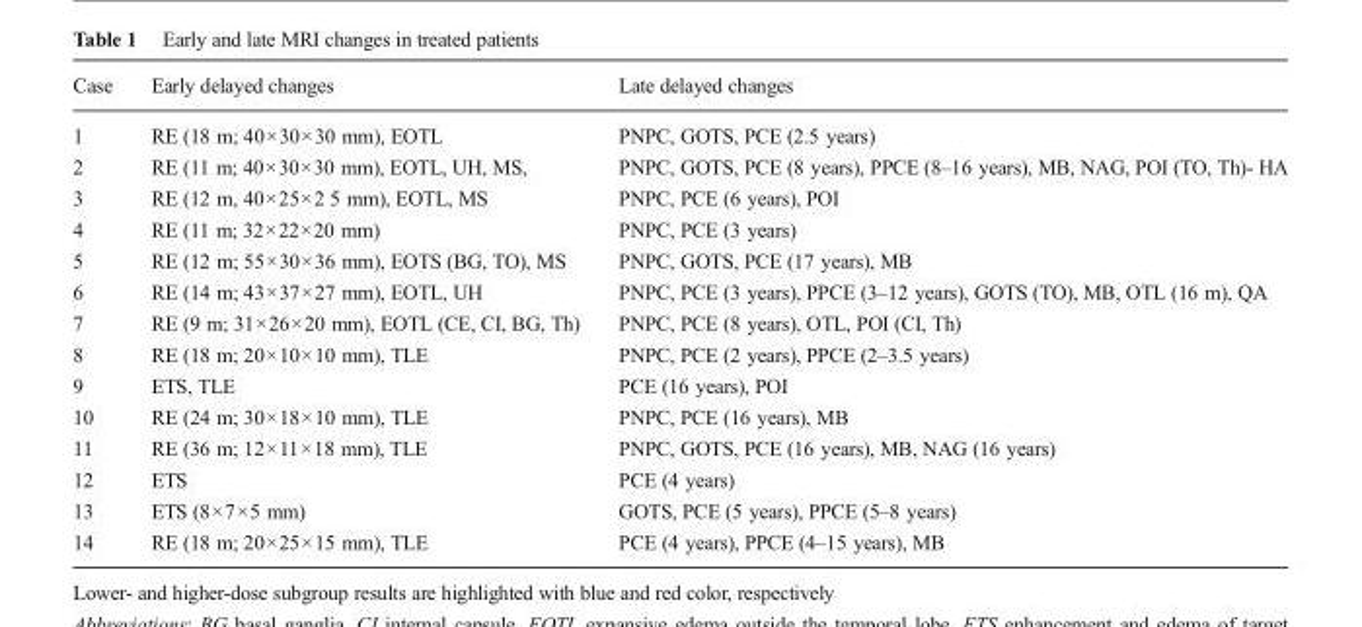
<table><thead><tr><td>Case</td><td>Early delayed changes</td><td>Late delayed changes</td></tr></thead><tbody><tr><td>1</td><td>RE (18 m; 40×30×30 mm), EOTL</td><td>PNPC, GOTS, PCE (2.5 years)</td></tr><tr><td>2</td><td>RE (11 m; 40×30×30 mm), EOTL, UH, MS,</td><td>PNPC, GOTS, PCE (8 years), PPCE (8–16 years), MB, NAG, POI (TO, Th)- HA</td></tr><tr><td>3</td><td>RE (12 m, 40×25×2 5 mm), EOTL, MS</td><td>PNPC, PCE (6 years), POI</td></tr><tr><td>4</td><td>RE (11 m; 32×22×20 mm)</td><td>PNPC, PCE (3 years)</td></tr><tr><td>5</td><td>RE (12 m; 55×30×36 mm), EOTS (BG, TO), MS</td><td>PNPC, GOTS, PCE (17 years), MB</td></tr><tr><td>6</td><td>RE (14 m; 43×37×27 mm), EOTL, UH</td><td>PNPC, PCE (3 years), PPCE (3–12 years), GOTS (TO), MB, OTL (16 m), QA</td></tr><tr><td>7</td><td>RE (9 m; 31×26×20 mm), EOTL (CE, CI, BG, Th)</td><td>PNPC, PCE (8 years), OTL, POI (CI, Th)</td></tr><tr><td>8</td><td>RE (18 m; 20×10×10 mm), TLE</td><td>PNPC, PCE (2 years), PPCE (2–3.5 years)</td></tr><tr><td>9</td><td>ETS, TLE</td><td>PCE (16 years), POI</td></tr><tr><td>10</td><td>RE (24 m; 30×18×10 mm), TLE</td><td>PNPC, PCE (16 years), MB</td></tr><tr><td>11</td><td>RE (36 m; 12×11×18 mm), TLE</td><td>PNPC, GOTS, PCE (16 years), MB, NAG (16 years)</td></tr><tr><td>12</td><td>ETS</td><td>PCE (4 years)</td></tr><tr><td>13</td><td>ETS (8×7×5 mm)</td><td>GOTS, PCE (5 years), PPCE (5–8 years)</td></tr><tr><td>14</td><td>RE (18 m; 20×25×15 mm), TLE</td><td>PCE (4 years), PPCE (4–15 years), MB</td></tr></tbody></table>